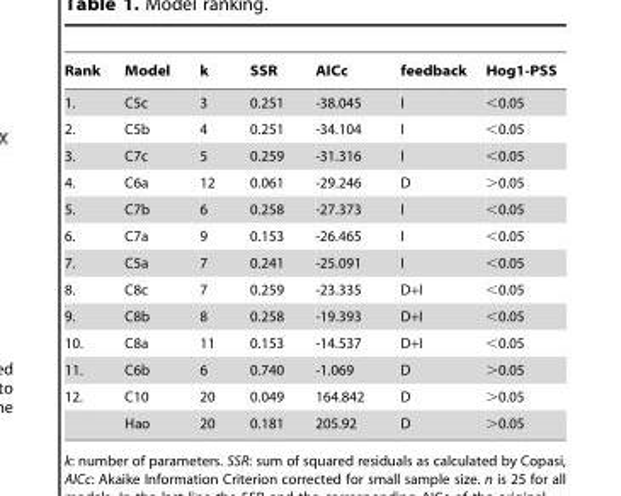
<table><thead><tr><td>Rank</td><td>Model</td><td>k</td><td>SSR</td><td>AICc</td><td>feedback</td><td>Hog1-PSS</td></tr></thead><tbody><tr><td>1.</td><td>C5c</td><td>3</td><td>0.251</td><td>-38.045</td><td>I</td><td>&lt;0.05</td></tr><tr><td>2.</td><td>C5b</td><td>4</td><td>0.251</td><td>-34.104</td><td>I</td><td>&lt;0.05</td></tr><tr><td>3.</td><td>C7c</td><td>5</td><td>0.259</td><td>-31.316</td><td>I</td><td>&lt;0.05</td></tr><tr><td>4.</td><td>C6a</td><td>12</td><td>0.061</td><td>-29.246</td><td>D</td><td>&gt;0.05</td></tr><tr><td>5.</td><td>C7b</td><td>6</td><td>0.258</td><td>-27.373</td><td>I</td><td>&lt;0.05</td></tr><tr><td>6.</td><td>C7a</td><td>9</td><td>0.153</td><td>-26.465</td><td>I</td><td>&lt;0.05</td></tr><tr><td>7.</td><td>C5a</td><td>7</td><td>0.241</td><td>-25.091</td><td>I</td><td>&lt;0.05</td></tr><tr><td>8.</td><td>C8c</td><td>7</td><td>0.259</td><td>-23.335</td><td>D+I</td><td>&lt;0.05</td></tr><tr><td>9.</td><td>C8b</td><td>8</td><td>0.258</td><td>-19.393</td><td>D+I</td><td>&lt;0.05</td></tr><tr><td>10.</td><td>C8a</td><td>11</td><td>0.153</td><td>-14.537</td><td>D+I</td><td>&lt;0.05</td></tr><tr><td>11.</td><td>C6b</td><td>6</td><td>0.740</td><td>-1.069</td><td>D</td><td>&gt;0.05</td></tr><tr><td rowspan="2">12.</td><td>C10</td><td>20</td><td>0.049</td><td>164.842</td><td>D</td><td>&gt;0.05</td></tr><tr><td>Hao</td><td>20</td><td>0.181</td><td>205.92</td><td>D</td><td>&gt;0.05</td></tr></tbody></table>